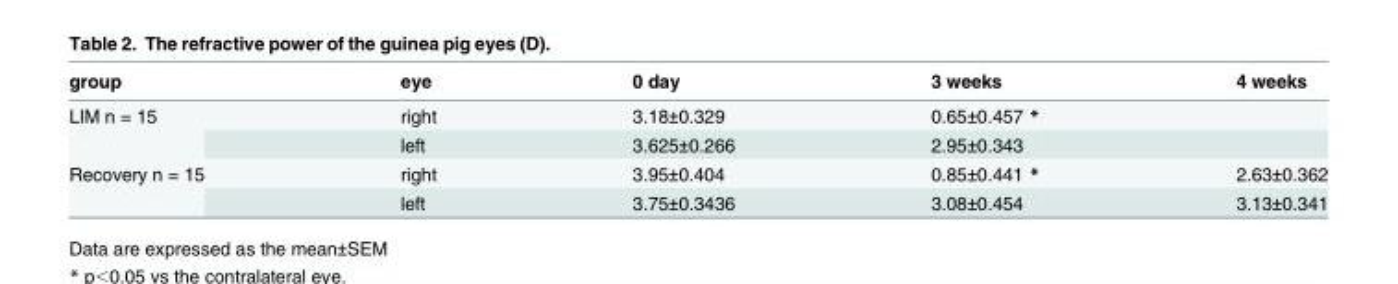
<table><thead><tr><td>group</td><td>eye</td><td>0 day</td><td>3 weeks</td><td>4 weeks</td></tr></thead><tbody><tr><td rowspan="2">LIM n = 15</td><td>right</td><td>3.18±0.329</td><td>0.65±0.457 *</td><td></td></tr><tr><td>left</td><td>3.625±0.266</td><td>2.95±0.343</td><td></td></tr><tr><td rowspan="2">Recovery n = 15</td><td>right</td><td>3.95±0.404</td><td>0.85±0.441 *</td><td>2.63±0.362</td></tr><tr><td>left</td><td>3.75±0.3436</td><td>3.08±0.454</td><td>3.13±0.341</td></tr></tbody></table>